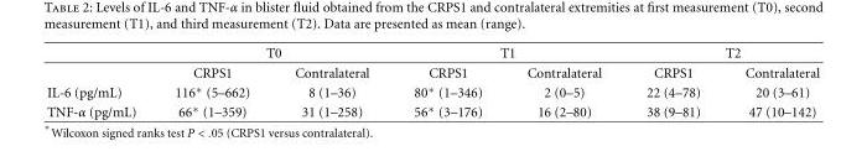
<table><thead><tr><td rowspan="2"></td><td colspan="2">T0</td><td colspan="2">T1</td><td colspan="2">T2</td></tr><tr><td>CRPS1</td><td>Contralateral</td><td>CRPS1</td><td>Contralateral</td><td>CRPS1</td><td>Contralateral</td></tr></thead><tbody><tr><td>IL-6 (pg/mL)</td><td>116∗ (5–662)</td><td>8 (1–36)</td><td>80∗ (1–346)</td><td>2 (0–5)</td><td>22 (4–78)</td><td>20 (3–61)</td></tr><tr><td>TNF-α (pg/mL)</td><td>66∗ (1–359)</td><td>31 (1–258)</td><td>56∗ (3–176)</td><td>16 (2–80)</td><td>38 (9–81)</td><td>47 (10–142)</td></tr></tbody></table>